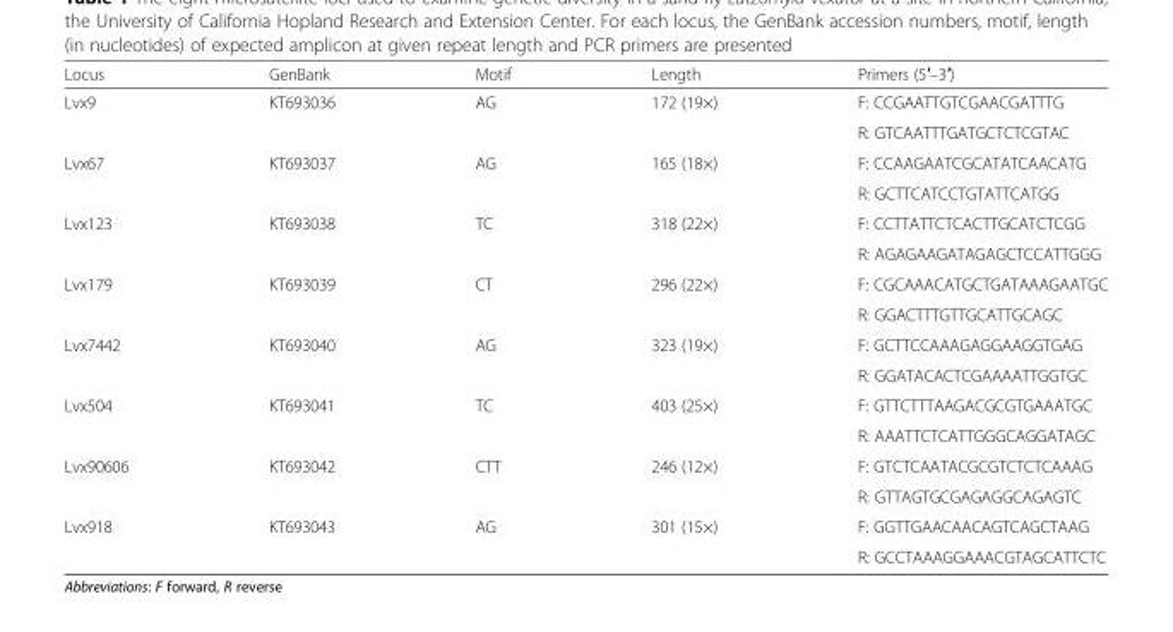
<table><thead><tr><td>Locus</td><td>GenBank</td><td>Motif</td><td>Length</td><td>Primers (5′–3′)</td></tr></thead><tbody><tr><td rowspan="2">Lvx9</td><td rowspan="2">KT693036</td><td rowspan="2">AG</td><td rowspan="2">172 (19×)</td><td>F: CCGAATTGTCGAACGATTTG</td></tr><tr><td>R: GTCAATTTGATGCTCTCGTAC</td></tr><tr><td rowspan="2">Lvx67</td><td rowspan="2">KT693037</td><td rowspan="2">AG</td><td rowspan="2">165 (18×)</td><td>F: CCAAGAATCGCATATCAACATG</td></tr><tr><td>R: GCTTCATCCTGTATTCATGG</td></tr><tr><td rowspan="2">Lvx123</td><td rowspan="2">KT693038</td><td rowspan="2">TC</td><td rowspan="2">318 (22×)</td><td>F: CCTTATTCTCACTTGCATCTCGG</td></tr><tr><td>R: AGAGAAGATAGAGCTCCATTGGG</td></tr><tr><td rowspan="2">Lvx179</td><td rowspan="2">KT693039</td><td rowspan="2">CT</td><td rowspan="2">296 (22×)</td><td>F: CGCAAACATGCTGATAAAGAATGC</td></tr><tr><td>R: GGACTTTGTTGCATTGCAGC</td></tr><tr><td rowspan="2">Lvx7442</td><td rowspan="2">KT693040</td><td rowspan="2">AG</td><td rowspan="2">323 (19×)</td><td>F: GCTTCCAAAGAGGAAGGTGAG</td></tr><tr><td>R: GGATACACTCGAAAATTGGTGC</td></tr><tr><td rowspan="2">Lvx504</td><td rowspan="2">KT693041</td><td rowspan="2">TC</td><td rowspan="2">403 (25×)</td><td>F: GTTCTTTAAGACGCGTGAAATGC</td></tr><tr><td>R: AAATTCTCATTGGGCAGGATAGC</td></tr><tr><td rowspan="2">Lvx90606</td><td rowspan="2">KT693042</td><td rowspan="2">CTT</td><td rowspan="2">246 (12×)</td><td>F: GTCTCAATACGCGTCTCTCAAAG</td></tr><tr><td>R: GTTAGTGCGAGAGGCAGAGTC</td></tr><tr><td rowspan="2">Lvx918</td><td rowspan="2">KT693043</td><td rowspan="2">AG</td><td rowspan="2">301 (15×)</td><td>F: GGTTGAACAACAGTCAGCTAAG</td></tr><tr><td>R: GCCTAAAGGAAACGTAGCATTCTC</td></tr></tbody></table>